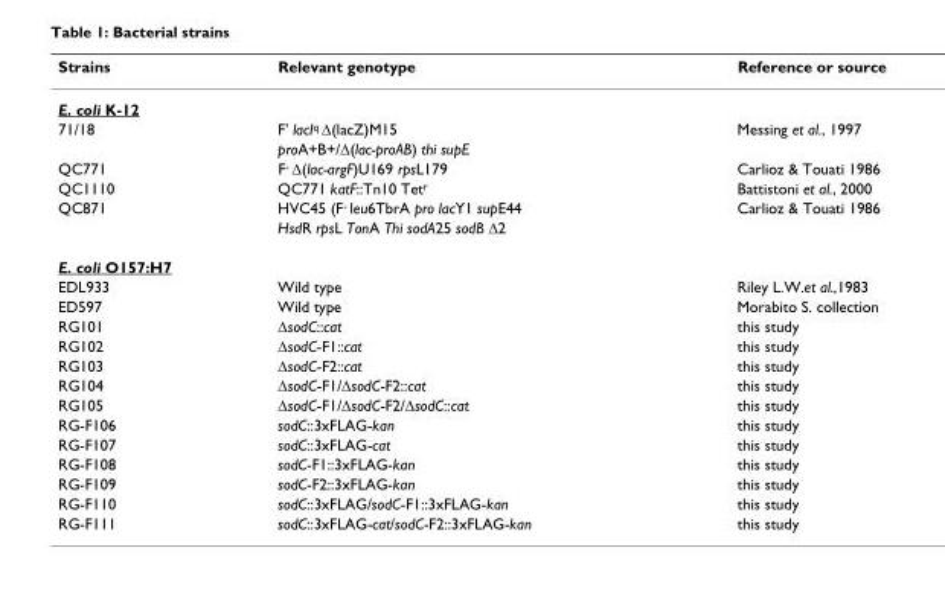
<table><thead><tr><td>Strains</td><td>Relevant genotype</td><td>Reference or source</td></tr></thead><tbody><tr><td colspan="3">E. coli K-12</td></tr><tr><td rowspan="2">71/18</td><td>F&#x27; lacI<sup>q</sup> Δ(lacZ)M15</td><td>Messing et al., 1997</td></tr><tr><td>proA+B+/Δ(lac-proAB) thi supE</td><td></td></tr><tr><td>QC771</td><td>F<sup>-</sup> Δ(lac-argF)U169 rpsL179</td><td>Carlioz &amp; Touati 1986</td></tr><tr><td>QC1110</td><td>QC771 katF::Tn10 Tet<sup>r</sup></td><td>Battistoni et al., 2000</td></tr><tr><td rowspan="2">QC871</td><td>HVC45 (F<sup>-</sup> leu6TbrA pro lacY1 supE44</td><td>Carlioz &amp; Touati 1986</td></tr><tr><td>HsdR rpsL TonA Thi sodA25 sodB Δ2</td><td></td></tr><tr><td colspan="3">E. coli O157:H7</td></tr><tr><td>EDL933</td><td>Wild type</td><td>Riley L.W.et al.,1983</td></tr><tr><td>ED597</td><td>Wild type</td><td>Morabito S. collection</td></tr><tr><td>RG101</td><td>ΔsodC::cat</td><td>this study</td></tr><tr><td>RG102</td><td>ΔsodC-F1::cat</td><td>this study</td></tr><tr><td>RG103</td><td>ΔsodC-F2::cat</td><td>this study</td></tr><tr><td>RG104</td><td>ΔsodC-F1/ΔsodC-F2::cat</td><td>this study</td></tr><tr><td>RG105</td><td>ΔsodC-F1/ΔsodC-F2/ΔsodC::cat</td><td>this study</td></tr><tr><td>RG-F106</td><td>sodC::3xFLAG-kan</td><td>this study</td></tr><tr><td>RG-F107</td><td>sodC::3xFLAG-cat</td><td>this study</td></tr><tr><td>RG-F108</td><td>sodC-F1::3xFLAG-kan</td><td>this study</td></tr><tr><td>RG-F109</td><td>sodC-F2::3xFLAG-kan</td><td>this study</td></tr><tr><td>RG-F110</td><td>sodC::3xFLAG/sodC-F1::3xFLAG-kan</td><td>this study</td></tr><tr><td>RG-F111</td><td>sodC::3xFLAG-cat/sodC-F2::3xFLAG-kan</td><td>this study</td></tr></tbody></table>